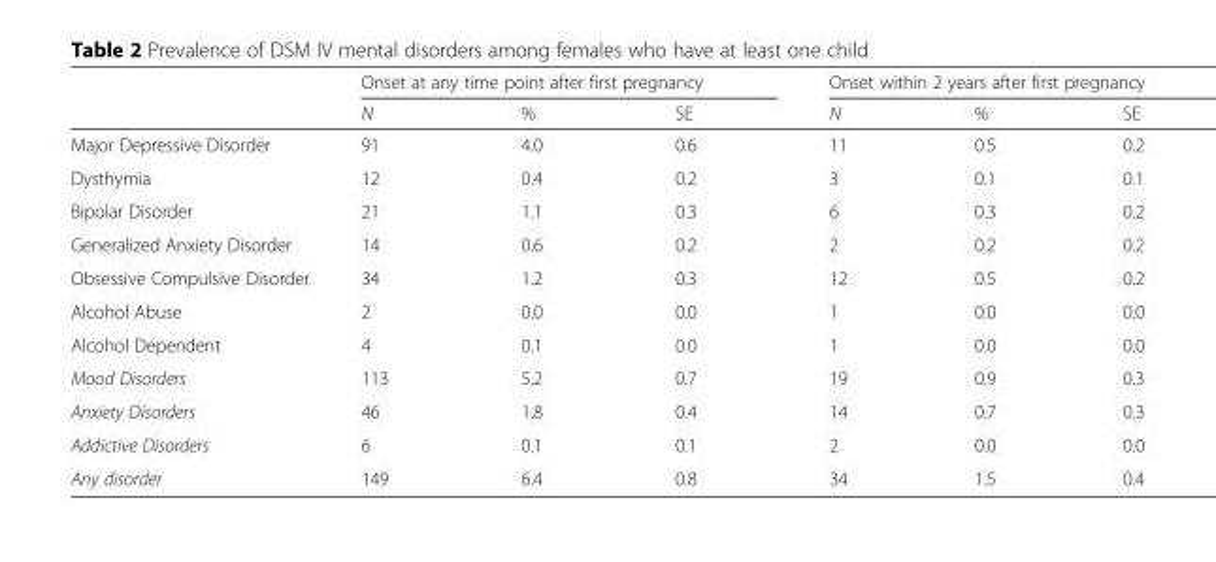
<table><thead><tr><td rowspan="2"></td><td colspan="3">Onset at any time point after first pregnancy</td><td colspan="3">Onset within 2 years after first pregnancy</td></tr><tr><td>N</td><td>%</td><td>SE</td><td>N</td><td>%</td><td>SE</td></tr></thead><tbody><tr><td>Major Depressive Disorder</td><td>91</td><td>4.0</td><td>0.6</td><td>11</td><td>0.5</td><td>0.2</td></tr><tr><td>Dysthymia</td><td>12</td><td>0.4</td><td>0.2</td><td>3</td><td>0.1</td><td>0.1</td></tr><tr><td>Bipolar Disorder</td><td>21</td><td>1.1</td><td>0.3</td><td>6</td><td>0.3</td><td>0.2</td></tr><tr><td>Generalized Anxiety Disorder</td><td>14</td><td>0.6</td><td>0.2</td><td>2</td><td>0.2</td><td>0.2</td></tr><tr><td>Obsessive Compulsive Disorder</td><td>34</td><td>1.2</td><td>0.3</td><td>12</td><td>0.5</td><td>0.2</td></tr><tr><td>Alcohol Abuse</td><td>2</td><td>0.0</td><td>0.0</td><td>1</td><td>0.0</td><td>0.0</td></tr><tr><td>Alcohol Dependent</td><td>4</td><td>0.1</td><td>0.0</td><td>1</td><td>0.0</td><td>0.0</td></tr><tr><td>Mood Disorders</td><td>113</td><td>5.2</td><td>0.7</td><td>19</td><td>0.9</td><td>0.3</td></tr><tr><td>Anxiety Disorders</td><td>46</td><td>1.8</td><td>0.4</td><td>14</td><td>0.7</td><td>0.3</td></tr><tr><td>Addictive Disorders</td><td>6</td><td>0.1</td><td>0.1</td><td>2</td><td>0.0</td><td>0.0</td></tr><tr><td>Any disorder</td><td>149</td><td>6.4</td><td>0.8</td><td>34</td><td>1.5</td><td>0.4</td></tr></tbody></table>